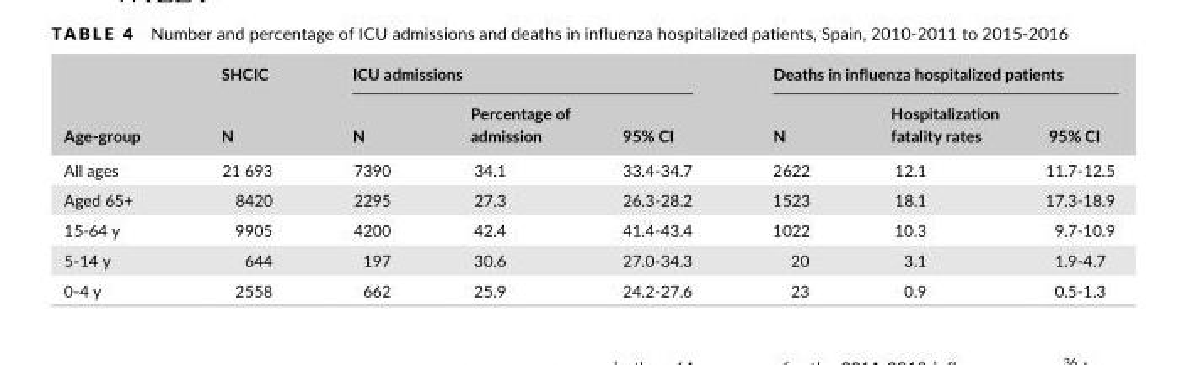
<table><thead><tr><td rowspan="2">Age- group</td><td rowspan="2">SHCIC N</td><td colspan="3">ICU admissions</td><td colspan="3">Deaths in influenza hospitalized patients</td></tr><tr><td>N</td><td>Percentage of admission</td><td>95% CI</td><td>N</td><td>Hospitalization fatality rates</td><td>95% CI</td></tr></thead><tbody><tr><td>All ages</td><td>21 693</td><td>7390</td><td>34.1</td><td>33.4- 34.7</td><td>2622</td><td>12.1</td><td>11.7- 12.5</td></tr><tr><td>Aged 65+</td><td>8420</td><td>2295</td><td>27.3</td><td>26.3- 28.2</td><td>1523</td><td>18.1</td><td>17.3- 18.9</td></tr><tr><td>15- 64 y</td><td>9905</td><td>4200</td><td>42.4</td><td>41.4- 43.4</td><td>1022</td><td>10.3</td><td>9.7- 10.9</td></tr><tr><td>5- 14 y</td><td>644</td><td>197</td><td>30.6</td><td>27.0- 34.3</td><td>20</td><td>3.1</td><td>1.9- 4.7</td></tr><tr><td>0- 4 y</td><td>2558</td><td>662</td><td>25.9</td><td>24.2- 27.6</td><td>23</td><td>0.9</td><td>0.5- 1.3</td></tr></tbody></table>